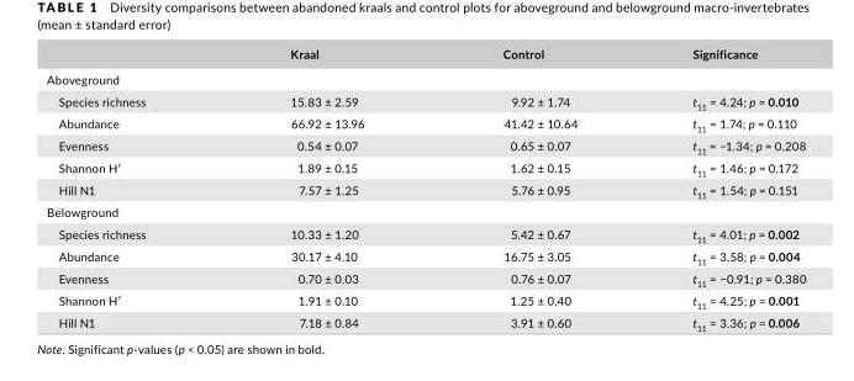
<table><thead><tr><td></td><td>Kraal</td><td>Control</td><td>Significance</td></tr></thead><tbody><tr><td colspan="4">Aboveground</td></tr><tr><td>Species richness</td><td>15.83 ± 2.59</td><td>9.92 ± 1.74</td><td>t<sub>11</sub> = 4.24; p = 0.010</td></tr><tr><td>Abundance</td><td>66.92 ± 13.96</td><td>41.42 ± 10.64</td><td>t<sub>11</sub> = 1.74; p = 0.110</td></tr><tr><td>Evenness</td><td>0.54 ± 0.07</td><td>0.65 ± 0.07</td><td>t<sub>11</sub> = −1.34; p = 0.208</td></tr><tr><td>Shannon H′</td><td>1.89 ± 0.15</td><td>1.62 ± 0.15</td><td>t<sub>11</sub> = 1.46; p = 0.172</td></tr><tr><td>Hill N1</td><td>7.57 ± 1.25</td><td>5.76 ± 0.95</td><td>t<sub>11</sub> = 1.54; p = 0.151</td></tr><tr><td colspan="4">Belowground</td></tr><tr><td>Species richness</td><td>10.33 ± 1.20</td><td>5.42 ± 0.67</td><td>t<sub>11</sub> = 4.01; p = 0.002</td></tr><tr><td>Abundance</td><td>30.17 ± 4.10</td><td>16.75 ± 3.05</td><td>t<sub>11</sub> = 3.58; p = 0.004</td></tr><tr><td>Evenness</td><td>0.70 ± 0.03</td><td>0.76 ± 0.07</td><td>t<sub>11</sub> = −0.91; p = 0.380</td></tr><tr><td>Shannon H′</td><td>1.91 ± 0.10</td><td>1.25 ± 0.40</td><td>t<sub>11</sub> = 4.25; p = 0.001</td></tr><tr><td>Hill N1</td><td>7.18 ± 0.84</td><td>3.91 ± 0.60</td><td>t<sub>11</sub> = 3.36; p = 0.006</td></tr></tbody></table>